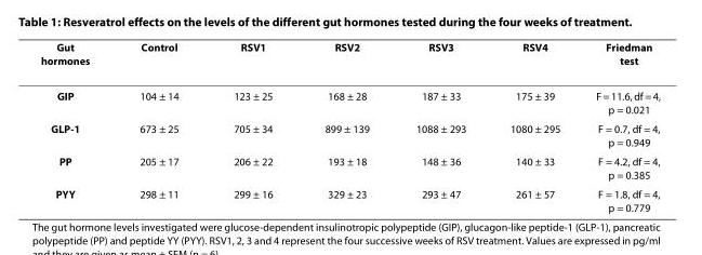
<table><thead><tr><td>Gut hormones</td><td>Control</td><td>RSV1</td><td>RSV2</td><td>RSV3</td><td>RSV4</td><td>Friedman test</td></tr></thead><tbody><tr><td>GIP</td><td>104 ± 14</td><td>123 ± 25</td><td>168 ± 28</td><td>187 ± 33</td><td>175 ± 39</td><td>F = 11.6, df = 4, p = 0.021</td></tr><tr><td>GLP-1</td><td>673 ± 25</td><td>705 ± 34</td><td>899 ± 139</td><td>1088 ± 293</td><td>1080 ± 295</td><td>F = 0.7, df = 4, p = 0.949</td></tr><tr><td>PP</td><td>205 ± 17</td><td>206 ± 22</td><td>193 ± 18</td><td>148 ± 36</td><td>140 ± 33</td><td>F = 4.2, df = 4, p = 0.385</td></tr><tr><td>PYY</td><td>298 ± 11</td><td>299 ± 16</td><td>329 ± 23</td><td>293 ± 47</td><td>261 ± 57</td><td>F = 1.8, df = 4, p = 0.779</td></tr></tbody></table>